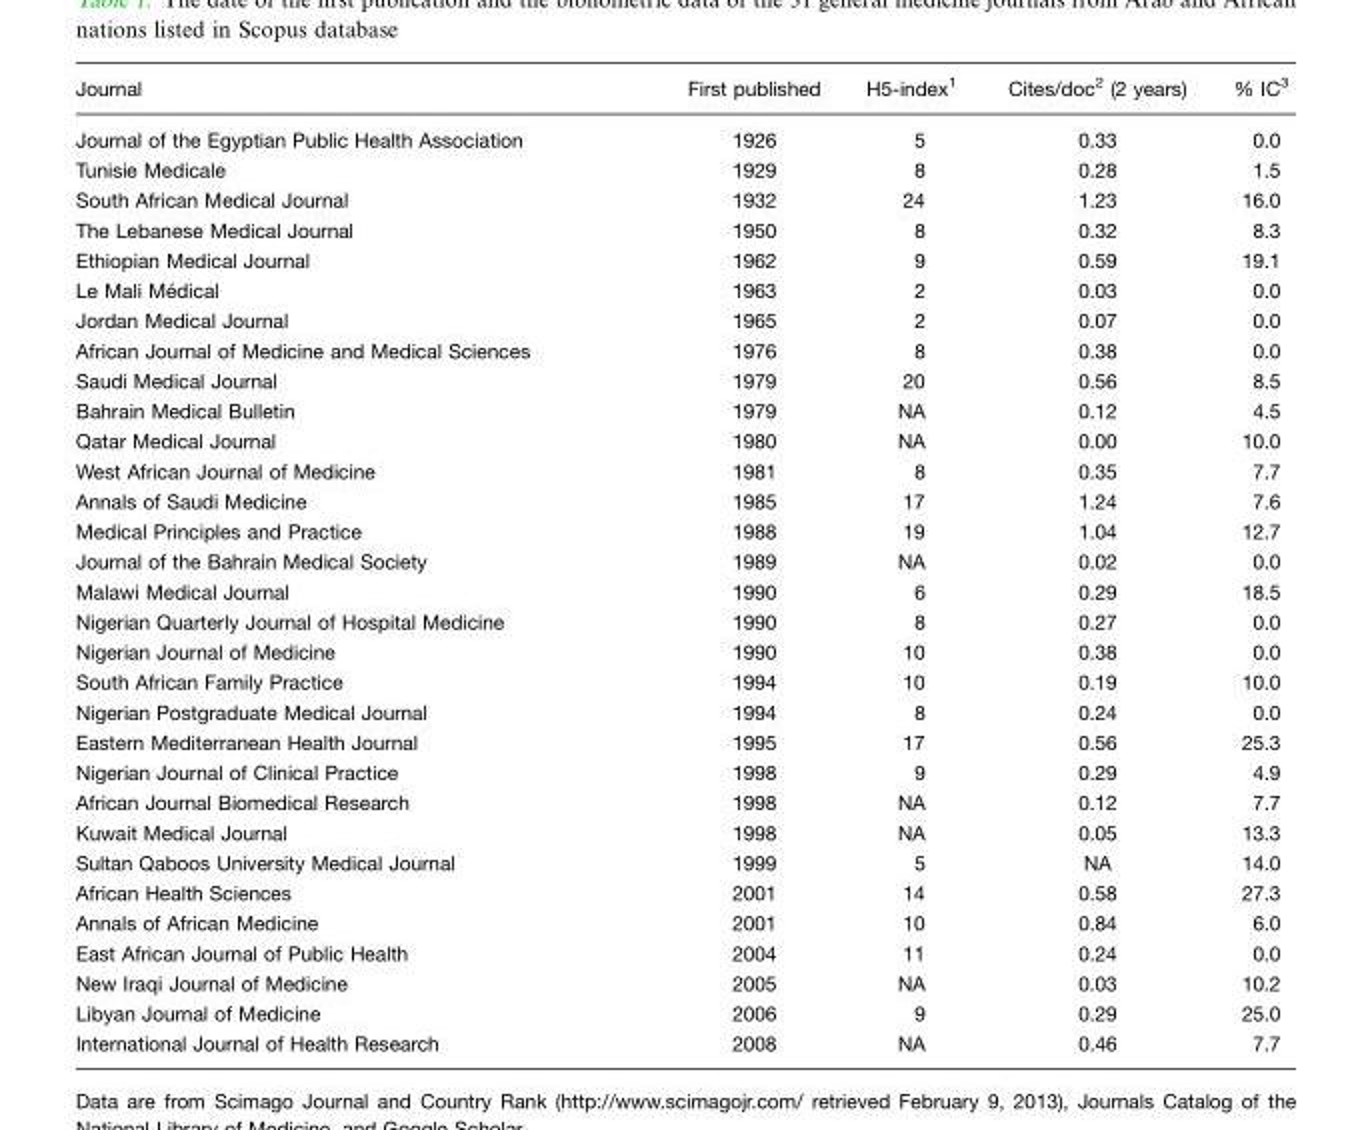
<table><thead><tr><td>Journal</td><td>First published</td><td>H5-index<sup>1</sup></td><td>Cites/doc<sup>2</sup> (2 years)</td><td>% IC<sup>3</sup></td></tr></thead><tbody><tr><td>Journal of the Egyptian Public Health Association</td><td>1926</td><td>5</td><td>0.33</td><td>0.0</td></tr><tr><td>Tunisie Medicale</td><td>1929</td><td>8</td><td>0.28</td><td>1.5</td></tr><tr><td>South African Medical Journal</td><td>1932</td><td>24</td><td>1.23</td><td>16.0</td></tr><tr><td>The Lebanese Medical Journal</td><td>1950</td><td>8</td><td>0.32</td><td>8.3</td></tr><tr><td>Ethiopian Medical Journal</td><td>1962</td><td>9</td><td>0.59</td><td>19.1</td></tr><tr><td>Le Mali Me´ dical</td><td>1963</td><td>2</td><td>0.03</td><td>0.0</td></tr><tr><td>Jordan Medical Journal</td><td>1965</td><td>2</td><td>0.07</td><td>0.0</td></tr><tr><td>African Journal of Medicine and Medical Sciences</td><td>1976</td><td>8</td><td>0.38</td><td>0.0</td></tr><tr><td>Saudi Medical Journal</td><td>1979</td><td>20</td><td>0.56</td><td>8.5</td></tr><tr><td>Bahrain Medical Bulletin</td><td>1979</td><td>NA</td><td>0.12</td><td>4.5</td></tr><tr><td>Qatar Medical Journal</td><td>1980</td><td>NA</td><td>0.00</td><td>10.0</td></tr><tr><td>West African Journal of Medicine</td><td>1981</td><td>8</td><td>0.35</td><td>7.7</td></tr><tr><td>Annals of Saudi Medicine</td><td>1985</td><td>17</td><td>1.24</td><td>7.6</td></tr><tr><td>Medical Principles and Practice</td><td>1988</td><td>19</td><td>1.04</td><td>12.7</td></tr><tr><td>Journal of the Bahrain Medical Society</td><td>1989</td><td>NA</td><td>0.02</td><td>0.0</td></tr><tr><td>Malawi Medical Journal</td><td>1990</td><td>6</td><td>0.29</td><td>18.5</td></tr><tr><td>Nigerian Quarterly Journal of Hospital Medicine</td><td>1990</td><td>8</td><td>0.27</td><td>0.0</td></tr><tr><td>Nigerian Journal of Medicine</td><td>1990</td><td>10</td><td>0.38</td><td>0.0</td></tr><tr><td>South African Family Practice</td><td>1994</td><td>10</td><td>0.19</td><td>10.0</td></tr><tr><td>Nigerian Postgraduate Medical Journal</td><td>1994</td><td>8</td><td>0.24</td><td>0.0</td></tr><tr><td>Eastern Mediterranean Health Journal</td><td>1995</td><td>17</td><td>0.56</td><td>25.3</td></tr><tr><td>Nigerian Journal of Clinical Practice</td><td>1998</td><td>9</td><td>0.29</td><td>4.9</td></tr><tr><td>African Journal Biomedical Research</td><td>1998</td><td>NA</td><td>0.12</td><td>7.7</td></tr><tr><td>Kuwait Medical Journal</td><td>1998</td><td>NA</td><td>0.05</td><td>13.3</td></tr><tr><td>Sultan Qaboos University Medical Journal</td><td>1999</td><td>5</td><td>NA</td><td>14.0</td></tr><tr><td>African Health Sciences</td><td>2001</td><td>14</td><td>0.58</td><td>27.3</td></tr><tr><td>Annals of African Medicine</td><td>2001</td><td>10</td><td>0.84</td><td>6.0</td></tr><tr><td>East African Journal of Public Health</td><td>2004</td><td>11</td><td>0.24</td><td>0.0</td></tr><tr><td>New Iraqi Journal of Medicine</td><td>2005</td><td>NA</td><td>0.03</td><td>10.2</td></tr><tr><td>Libyan Journal of Medicine</td><td>2006</td><td>9</td><td>0.29</td><td>25.0</td></tr><tr><td>International Journal of Health Research</td><td>2008</td><td>NA</td><td>0.46</td><td>7.7</td></tr></tbody></table>